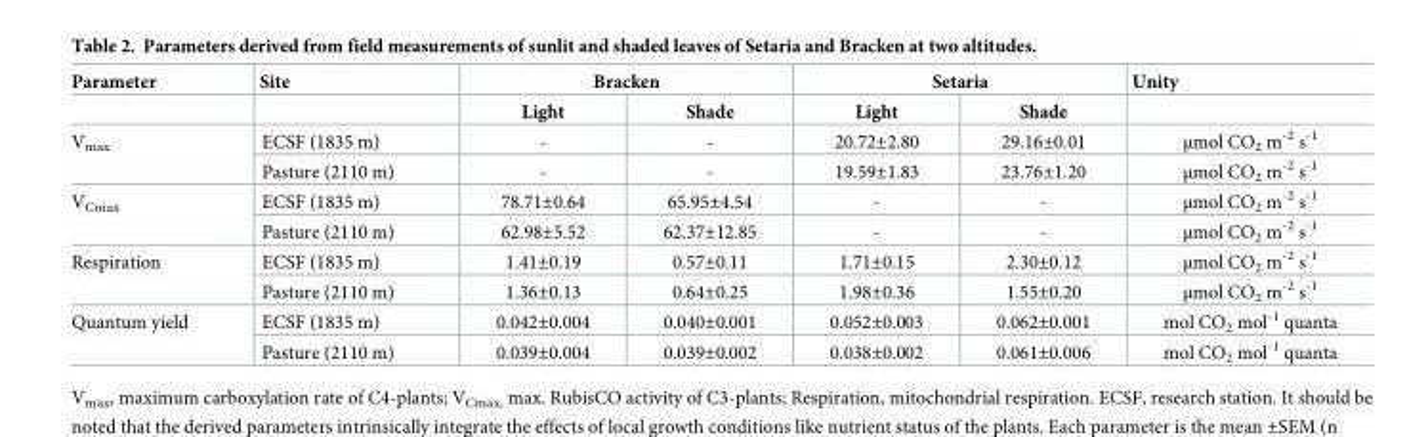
<table><thead><tr><td rowspan="2">Parameter</td><td rowspan="2">Site</td><td colspan="2">Bracken</td><td colspan="2">Setaria</td><td rowspan="2">Unity</td></tr><tr><td>Light</td><td>Shade</td><td>Light</td><td>Shade</td></tr></thead><tbody><tr><td rowspan="2">V<sub>max</sub></td><td>ECSF (1835 m)</td><td>-</td><td>-</td><td>20.72±2.80</td><td>29.16±0.01</td><td>μmol CO<sub>2</sub> m<sup>-2</sup> s<sup>-1</sup></td></tr><tr><td>Pasture (2110 m)</td><td>-</td><td>-</td><td>19.59±1.83</td><td>23.76±1.20</td><td>μmol CO<sub>2</sub> m<sup>-2</sup> s<sup>-1</sup></td></tr><tr><td rowspan="2">V<sub>Cmax</sub></td><td>ECSF (1835 m)</td><td>78.71±0.64</td><td>65.95±4.54</td><td>-</td><td>-</td><td>μmol CO<sub>2</sub> m<sup>-2</sup> s<sup>-1</sup></td></tr><tr><td>Pasture (2110 m)</td><td>62.98±5.52</td><td>62.37±12.85</td><td>-</td><td>-</td><td>μmol CO<sub>2</sub> m<sup>-2</sup> s<sup>-1</sup></td></tr><tr><td rowspan="2">Respiration</td><td>ECSF (1835 m)</td><td>1.41±0.19</td><td>0.57±0.11</td><td>1.71±0.15</td><td>2.30±0.12</td><td>μmol CO<sub>2</sub> m<sup>-2</sup> s<sup>-1</sup></td></tr><tr><td>Pasture (2110 m)</td><td>1.36±0.13</td><td>0.64±0.25</td><td>1.98±0.36</td><td>1.55±0.20</td><td>μmol CO<sub>2</sub> m<sup>-2</sup> s<sup>-1</sup></td></tr><tr><td rowspan="2">Quantum yield</td><td>ECSF (1835 m)</td><td>0.042±0.004</td><td>0.040±0.001</td><td>0.052±0.003</td><td>0.062±0.001</td><td>mol CO<sub>2</sub> mol<sup>-1</sup> quanta</td></tr><tr><td>Pasture (2110 m)</td><td>0.039±0.004</td><td>0.039±0.002</td><td>0.038±0.002</td><td>0.061±0.006</td><td>mol CO<sub>2</sub> mol<sup>-1</sup> quanta</td></tr></tbody></table>